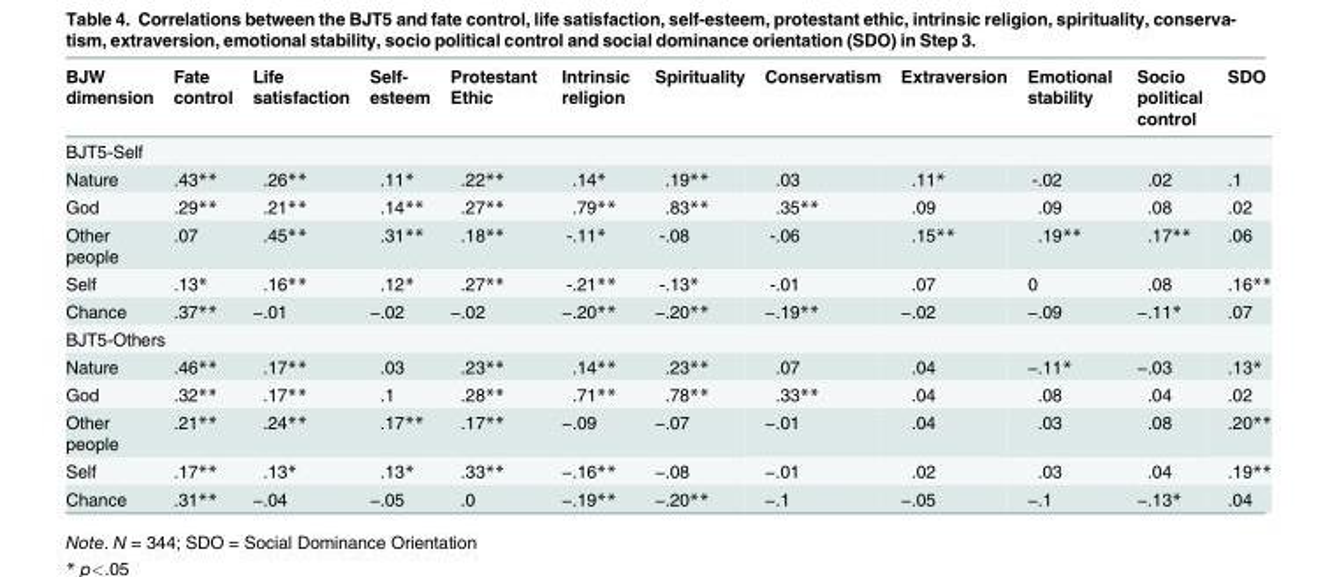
<table><thead><tr><td>BJW dimension</td><td>Fate control</td><td>Life satisfaction</td><td>Self- esteem</td><td>Protestant Ethic</td><td>Intrinsic religion</td><td>Spirituality</td><td>Conservatism</td><td>Extraversion</td><td>Emotional stability</td><td>Socio political control</td><td>SDO</td></tr></thead><tbody><tr><td colspan="12">BJT5-Self</td></tr><tr><td>Nature</td><td>.43**</td><td>.26**</td><td>.11*</td><td>.22**</td><td>.14*</td><td>.19**</td><td>.03</td><td>.11*</td><td>-.02</td><td>.02</td><td>.1</td></tr><tr><td>God</td><td>.29**</td><td>.21**</td><td>.14**</td><td>.27**</td><td>.79**</td><td>.83**</td><td>.35**</td><td>.09</td><td>.09</td><td>.08</td><td>.02</td></tr><tr><td>Other people</td><td>.07</td><td>.45**</td><td>.31**</td><td>.18**</td><td>-.11*</td><td>-.08</td><td>-.06</td><td>.15**</td><td>.19**</td><td>.17**</td><td>.06</td></tr><tr><td>Self</td><td>.13*</td><td>.16**</td><td>.12*</td><td>.27**</td><td>-.21**</td><td>-.13*</td><td>-.01</td><td>.07</td><td>0</td><td>.08</td><td>.16**</td></tr><tr><td>Chance</td><td>.37**</td><td>−.01</td><td>−.02</td><td>−.02</td><td>−.20**</td><td>−.20**</td><td>−.19**</td><td>−.02</td><td>−.09</td><td>−.11*</td><td>.07</td></tr><tr><td colspan="12">BJT5-Others</td></tr><tr><td>Nature</td><td>.46**</td><td>.17**</td><td>.03</td><td>.23**</td><td>.14**</td><td>.23**</td><td>.07</td><td>.04</td><td>−.11*</td><td>−.03</td><td>.13*</td></tr><tr><td>God</td><td>.32**</td><td>.17**</td><td>.1</td><td>.28**</td><td>.71**</td><td>.78**</td><td>.33**</td><td>.04</td><td>.08</td><td>.04</td><td>.02</td></tr><tr><td>Other people</td><td>.21**</td><td>.24**</td><td>.17**</td><td>.17**</td><td>−.09</td><td>−.07</td><td>−.01</td><td>.04</td><td>.03</td><td>.08</td><td>.20**</td></tr><tr><td>Self</td><td>.17**</td><td>.13*</td><td>.13*</td><td>.33**</td><td>−.16**</td><td>−.08</td><td>−.01</td><td>.02</td><td>.03</td><td>.04</td><td>.19**</td></tr><tr><td>Chance</td><td>.31**</td><td>−.04</td><td>−.05</td><td>.0</td><td>−.19**</td><td>−.20**</td><td>−.1</td><td>−.05</td><td>−.1</td><td>−.13*</td><td>.04</td></tr></tbody></table>